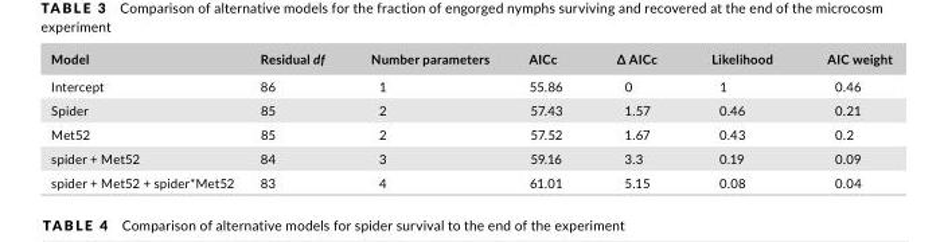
<table><thead><tr><td>Model</td><td>Residual df</td><td>Number parameters</td><td>AICc</td><td>∆ AICc</td><td>Likelihood</td><td>AIC weight</td></tr></thead><tbody><tr><td>Intercept</td><td>86</td><td>1</td><td>55.86</td><td>0</td><td>1</td><td>0.46</td></tr><tr><td>Spider</td><td>85</td><td>2</td><td>57.43</td><td>1.57</td><td>0.46</td><td>0.21</td></tr><tr><td>Met52</td><td>85</td><td>2</td><td>57.52</td><td>1.67</td><td>0.43</td><td>0.2</td></tr><tr><td>spider + Met52</td><td>84</td><td>3</td><td>59.16</td><td>3.3</td><td>0.19</td><td>0.09</td></tr><tr><td>spider + Met52 + spider*Met52</td><td>83</td><td>4</td><td>61.01</td><td>5.15</td><td>0.08</td><td>0.04</td></tr></tbody></table>